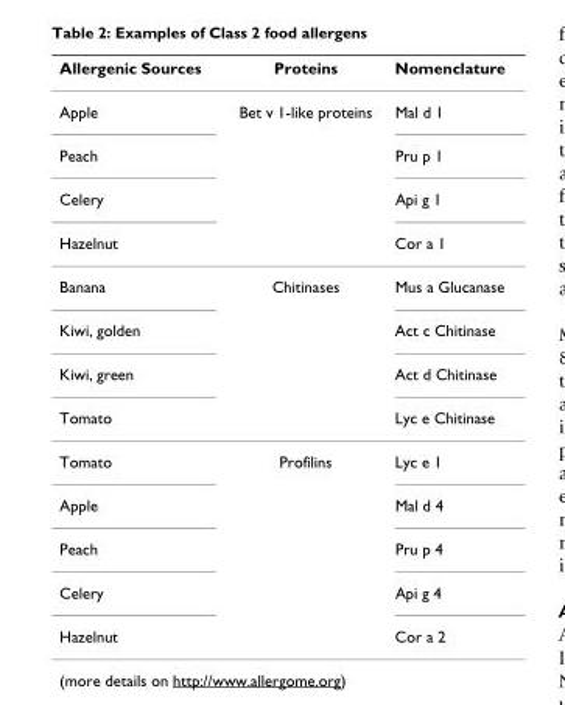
<table><thead><tr><td>Allergenic Sources</td><td>Proteins</td><td>Nomenclature</td></tr></thead><tbody><tr><td>Apple</td><td>Bet v 1-like proteins</td><td>Mal d 1</td></tr><tr><td>Peach</td><td></td><td>Pru p 1</td></tr><tr><td>Celery</td><td></td><td>Api g 1</td></tr><tr><td>Hazelnut</td><td></td><td>Cor a 1</td></tr><tr><td>Banana</td><td>Chitinases</td><td>Mus a Glucanase</td></tr><tr><td>Kiwi, golden</td><td></td><td>Act c Chitinase</td></tr><tr><td>Kiwi, green</td><td></td><td>Act d Chitinase</td></tr><tr><td>Tomato</td><td></td><td>Lyc e Chitinase</td></tr><tr><td>Tomato</td><td>Profilins</td><td>Lyc e 1</td></tr><tr><td>Apple</td><td></td><td>Mal d 4</td></tr><tr><td>Peach</td><td></td><td>Pru p 4</td></tr><tr><td>Celery</td><td></td><td>Api g 4</td></tr><tr><td>Hazelnut</td><td></td><td>Cor a 2</td></tr></tbody></table>